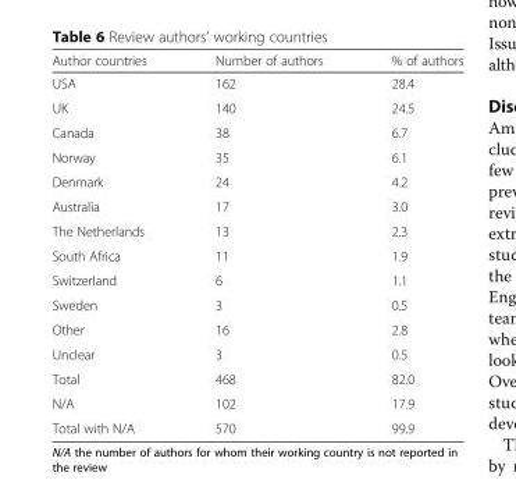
<table><thead><tr><td>Author countries</td><td>Number of authors</td><td>% of authors</td></tr></thead><tbody><tr><td>USA</td><td>162</td><td>28.4</td></tr><tr><td>UK</td><td>140</td><td>24.5</td></tr><tr><td>Canada</td><td>38</td><td>6.7</td></tr><tr><td>Norway</td><td>35</td><td>6.1</td></tr><tr><td>Denmark</td><td>24</td><td>4.2</td></tr><tr><td>Australia</td><td>17</td><td>3.0</td></tr><tr><td>The Netherlands</td><td>13</td><td>2.3</td></tr><tr><td>South Africa</td><td>11</td><td>1.9</td></tr><tr><td>Switzerland</td><td>6</td><td>1.1</td></tr><tr><td>Sweden</td><td>3</td><td>0.5</td></tr><tr><td>Other</td><td>16</td><td>2.8</td></tr><tr><td>Unclear</td><td>3</td><td>0.5</td></tr><tr><td>Total</td><td>468</td><td>82.0</td></tr><tr><td>N/A</td><td>102</td><td>17.9</td></tr><tr><td>Total with N/A</td><td>570</td><td>99.9</td></tr></tbody></table>